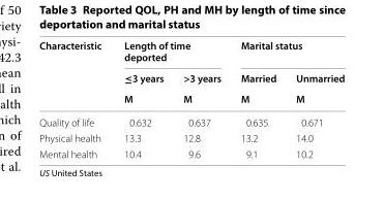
<table><thead><tr><td rowspan="3">Characteristic</td><td colspan="2">Length of time deported</td><td colspan="2">Marital status</td></tr><tr><td rowspan="2">≤3 years M</td><td rowspan="2">&gt;3 years M</td><td rowspan="2">Married M</td><td rowspan="2">Unmarried M</td></tr><tr></tr></thead><tbody><tr><td>Quality of life</td><td>0.632</td><td>0.637</td><td>0.635</td><td>0.671</td></tr><tr><td>Physical health</td><td>13.3</td><td>12.8</td><td>13.2</td><td>14.0</td></tr><tr><td>Mental health</td><td>10.4</td><td>9.6</td><td>9.1</td><td>10.2</td></tr></tbody></table>